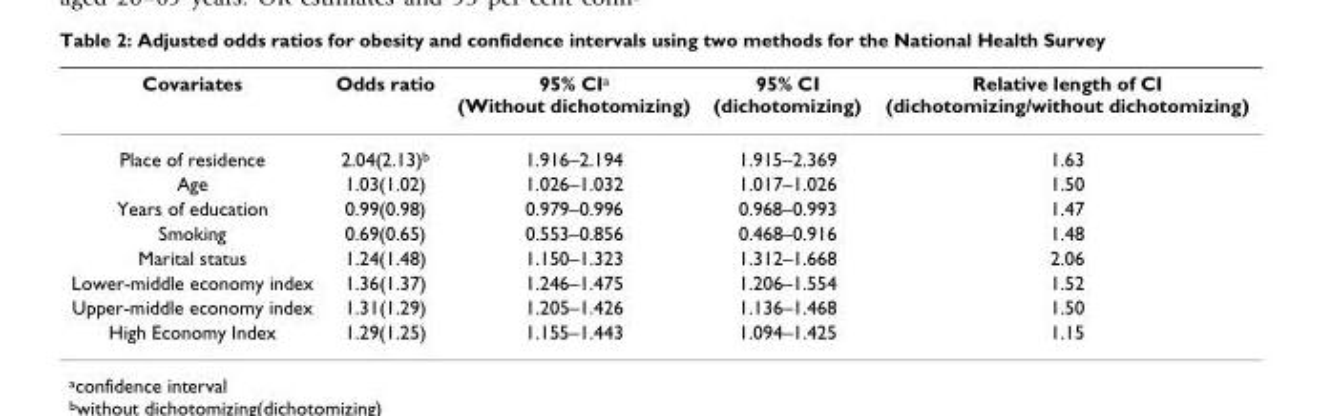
<table><thead><tr><td>Covariates</td><td>Odds ratio</td><td>95% CI<sup>a</sup> (Without dichotomizing)</td><td>95% CI (dichotomizing)</td><td>Relative length of CI (dichotomizing/without dichotomizing)</td></tr></thead><tbody><tr><td>Place of residence</td><td>2.04(2.13)<sup>b</sup></td><td>1.916–2.194</td><td>1.915–2.369</td><td>1.63</td></tr><tr><td>Age</td><td>1.03(1.02)</td><td>1.026–1.032</td><td>1.017–1.026</td><td>1.50</td></tr><tr><td>Years of education</td><td>0.99(0.98)</td><td>0.979–0.996</td><td>0.968–0.993</td><td>1.47</td></tr><tr><td>Smoking</td><td>0.69(0.65)</td><td>0.553–0.856</td><td>0.468–0.916</td><td>1.48</td></tr><tr><td>Marital status</td><td>1.24(1.48)</td><td>1.150–1.323</td><td>1.312–1.668</td><td>2.06</td></tr><tr><td>Lower-middle economy index</td><td>1.36(1.37)</td><td>1.246–1.475</td><td>1.206–1.554</td><td>1.52</td></tr><tr><td>Upper-middle economy index</td><td>1.31(1.29)</td><td>1.205–1.426</td><td>1.136–1.468</td><td>1.50</td></tr><tr><td>High Economy Index</td><td>1.29(1.25)</td><td>1.155–1.443</td><td>1.094–1.425</td><td>1.15</td></tr></tbody></table>